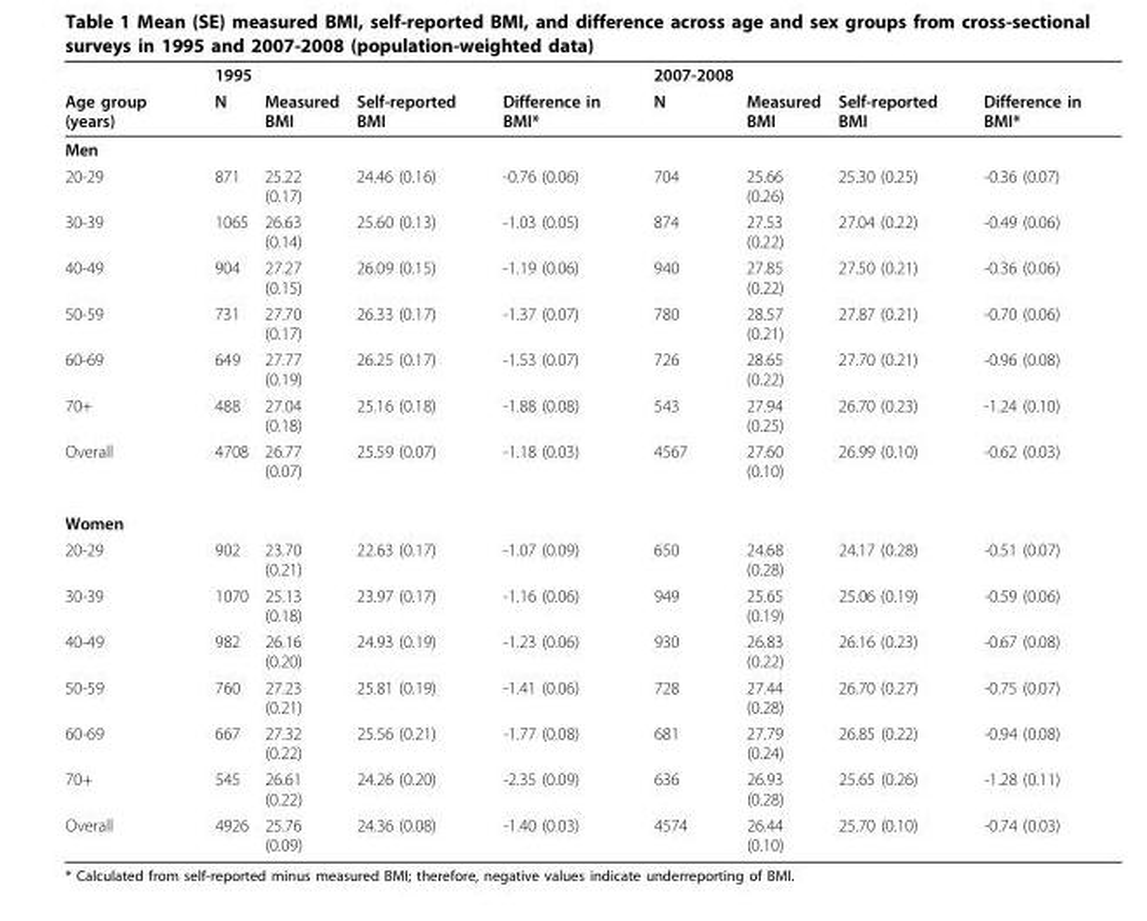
<table><thead><tr><td rowspan="2">Age group (years)</td><td rowspan="2">1995 N</td><td rowspan="2">Measured BMI</td><td rowspan="2">Self-reported BMI</td><td rowspan="2">Difference in BMI*</td><td rowspan="2">2007-2008 N</td><td rowspan="2">Measured BMI</td><td rowspan="2">Self-reported BMI</td><td rowspan="2">Difference in BMI*</td></tr><tr></tr></thead><tbody><tr><td colspan="9">Men</td></tr><tr><td>20-29</td><td>871</td><td>25.22 (0.17)</td><td>24.46 (0.16)</td><td>-0.76 (0.06)</td><td>704</td><td>25.66 (0.26)</td><td>25.30 (0.25)</td><td>-0.36 (0.07)</td></tr><tr><td>30-39</td><td>1065</td><td>26.63 (0.14)</td><td>25.60 (0.13)</td><td>-1.03 (0.05)</td><td>874</td><td>27.53 (0.22)</td><td>27.04 (0.22)</td><td>-0.49 (0.06)</td></tr><tr><td>40-49</td><td>904</td><td>27.27 (0.15)</td><td>26.09 (0.15)</td><td>-1.19 (0.06)</td><td>940</td><td>27.85 (0.22)</td><td>27.50 (0.21)</td><td>-0.36 (0.06)</td></tr><tr><td>50-59</td><td>731</td><td>27.70 (0.17)</td><td>26.33 (0.17)</td><td>-1.37 (0.07)</td><td>780</td><td>28.57 (0.21)</td><td>27.87 (0.21)</td><td>-0.70 (0.06)</td></tr><tr><td>60-69</td><td>649</td><td>27.77 (0.19)</td><td>26.25 (0.17)</td><td>-1.53 (0.07)</td><td>726</td><td>28.65 (0.22)</td><td>27.70 (0.21)</td><td>-0.96 (0.08)</td></tr><tr><td>70+</td><td>488</td><td>27.04 (0.18)</td><td>25.16 (0.18)</td><td>-1.88 (0.08)</td><td>543</td><td>27.94 (0.25)</td><td>26.70 (0.23)</td><td>-1.24 (0.10)</td></tr><tr><td>Overall</td><td>4708</td><td>26.77 (0.07)</td><td>25.59 (0.07)</td><td>-1.18 (0.03)</td><td>4567</td><td>27.60 (0.10)</td><td>26.99 (0.10)</td><td>-0.62 (0.03)</td></tr><tr><td colspan="9">Women</td></tr><tr><td>20-29</td><td>902</td><td>23.70 (0.21)</td><td>22.63 (0.17)</td><td>-1.07 (0.09)</td><td>650</td><td>24.68 (0.28)</td><td>24.17 (0.28)</td><td>-0.51 (0.07)</td></tr><tr><td>30-39</td><td>1070</td><td>25.13 (0.18)</td><td>23.97 (0.17)</td><td>-1.16 (0.06)</td><td>949</td><td>25.65 (0.19)</td><td>25.06 (0.19)</td><td>-0.59 (0.06)</td></tr><tr><td>40-49</td><td>982</td><td>26.16 (0.20)</td><td>24.93 (0.19)</td><td>-1.23 (0.06)</td><td>930</td><td>26.83 (0.22)</td><td>26.16 (0.23)</td><td>-0.67 (0.08)</td></tr><tr><td>50-59</td><td>760</td><td>27.23 (0.21)</td><td>25.81 (0.19)</td><td>-1.41 (0.06)</td><td>728</td><td>27.44 (0.28)</td><td>26.70 (0.27)</td><td>-0.75 (0.07)</td></tr><tr><td>60-69</td><td>667</td><td>27.32 (0.22)</td><td>25.56 (0.21)</td><td>-1.77 (0.08)</td><td>681</td><td>27.79 (0.24)</td><td>26.85 (0.22)</td><td>-0.94 (0.08)</td></tr><tr><td>70+</td><td>545</td><td>26.61 (0.22)</td><td>24.26 (0.20)</td><td>-2.35 (0.09)</td><td>636</td><td>26.93 (0.28)</td><td>25.65 (0.26)</td><td>-1.28 (0.11)</td></tr><tr><td>Overall</td><td>4926</td><td>25.76 (0.09)</td><td>24.36 (0.08)</td><td>-1.40 (0.03)</td><td>4574</td><td>26.44 (0.10)</td><td>25.70 (0.10)</td><td>-0.74 (0.03)</td></tr></tbody></table>